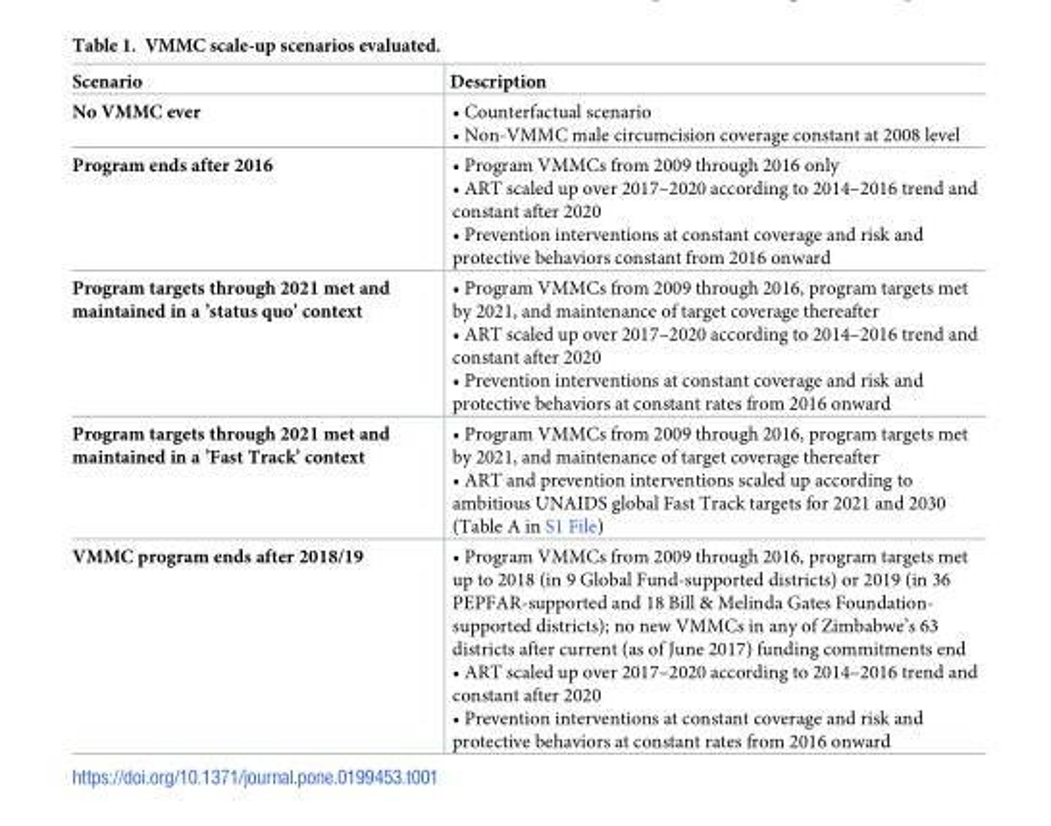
<table><thead><tr><td>Scenario</td><td>Description</td></tr></thead><tbody><tr><td>No VMMC ever</td><td>• Counterfactual scenario • Non-VMMC male circumcision coverage constant at 2008 level</td></tr><tr><td>Program ends after 2016</td><td>• Program VMMCs from 2009 through 2016 only • ART scaled up over 2017–2020 according to 2014–2016 trend and constant after 2020 • Prevention interventions at constant coverage and risk and protective behaviors constant from 2016 onward</td></tr><tr><td>Program targets through 2021 met and maintained in a ’status quo’ context</td><td>• Program VMMCs from 2009 through 2016, program targets met by 2021, and maintenance of target coverage thereafter • ART scaled up over 2017–2020 according to 2014–2016 trend and constant after 2020 • Prevention interventions at constant coverage and risk and protective behaviors at constant rates from 2016 onward</td></tr><tr><td>Program targets through 2021 met and maintained in a ’Fast Track’ context</td><td>• Program VMMCs from 2009 through 2016, program targets met by 2021, and maintenance of target coverage thereafter • ART and prevention interventions scaled up according to ambitious UNAIDS global Fast Track targets for 2021 and 2030 (Table A in S1 File)</td></tr><tr><td>VMMC program ends after 2018/19</td><td>• Program VMMCs from 2009 through 2016, program targets met up to 2018 (in 9 Global Fund-supported districts) or 2019 (in 36 PEPFAR-supported and 18 Bill &amp; Melinda Gates Foundation- supported districts); no new VMMCs in any of Zimbabwe’s 63 districts after current (as of June 2017) funding commitments end • ART scaled up over 2017–2020 according to 2014–2016 trend and constant after 2020 • Prevention interventions at constant coverage and risk and protective behaviors at constant rates from 2016 onward</td></tr></tbody></table>